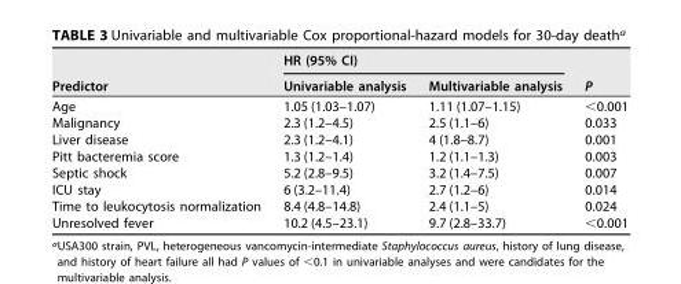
<table><thead><tr><td rowspan="2">Predictor</td><td colspan="2">HR (95% CI)</td><td rowspan="2">P</td></tr><tr><td>Univariable analysis</td><td>Multivariable analysis</td></tr></thead><tbody><tr><td>Age</td><td>1.05 (1.03–1.07)</td><td>1.11 (1.07–1.15)</td><td>&lt;0.001</td></tr><tr><td>Malignancy</td><td>2.3 (1.2–4.5)</td><td>2.5 (1.1–6)</td><td>0.033</td></tr><tr><td>Liver disease</td><td>2.3 (1.2–4.1)</td><td>4 (1.8–8.7)</td><td>0.001</td></tr><tr><td>Pitt bacteremia score</td><td>1.3 (1.2–1.4)</td><td>1.2 (1.1–1.3)</td><td>0.003</td></tr><tr><td>Septic shock</td><td>5.2 (2.8–9.5)</td><td>3.2 (1.4–7.5)</td><td>0.007</td></tr><tr><td>ICU stay</td><td>6 (3.2–11.4)</td><td>2.7 (1.2–6)</td><td>0.014</td></tr><tr><td>Time to leukocytosis normalization</td><td>8.4 (4.8–14.8)</td><td>2.4 (1.1–5)</td><td>0.024</td></tr><tr><td>Unresolved fever</td><td>10.2 (4.5–23.1)</td><td>9.7 (2.8–33.7)</td><td>&lt;0.001</td></tr></tbody></table>